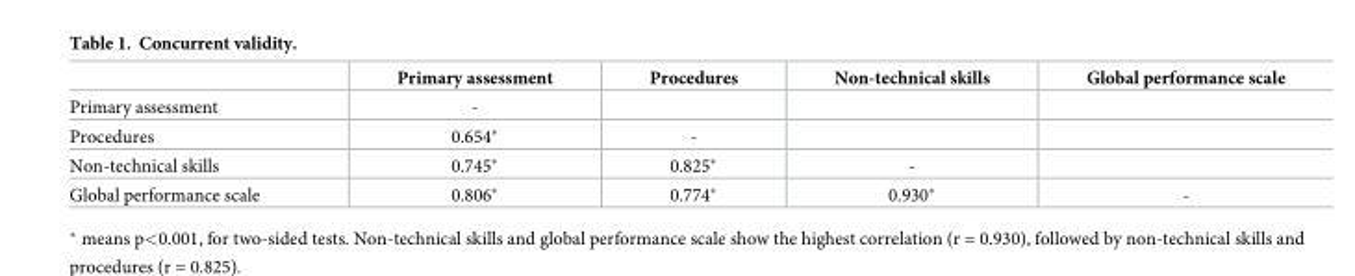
<table><thead><tr><td></td><td>Primary assessment</td><td>Procedures</td><td>Non-technical skills</td><td>Global performance scale</td></tr></thead><tbody><tr><td>Primary assessment</td><td>-</td><td></td><td></td><td></td></tr><tr><td>Procedures</td><td>0.654*</td><td>-</td><td></td><td></td></tr><tr><td>Non-technical skills</td><td>0.745*</td><td>0.825*</td><td>-</td><td></td></tr><tr><td>Global performance scale</td><td>0.806*</td><td>0.774*</td><td>0.930*</td><td>-</td></tr></tbody></table>